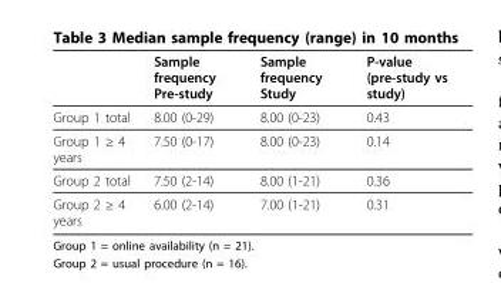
<table><thead><tr><td></td><td>Sample frequency Pre-study</td><td>Sample frequency Study</td><td>P-value (pre-study vs study)</td></tr></thead><tbody><tr><td>Group 1 total</td><td>8.00 (0-29)</td><td>8.00 (0-23)</td><td>0.43</td></tr><tr><td>Group 1 ≥ 4 years</td><td>7.50 (0-17)</td><td>8.00 (0-23)</td><td>0.14</td></tr><tr><td>Group 2 total</td><td>7.50 (2-14)</td><td>8.00 (1-21)</td><td>0.36</td></tr><tr><td>Group 2 ≥ 4 years</td><td>6.00 (2-14)</td><td>7.00 (1-21)</td><td>0.31</td></tr></tbody></table>